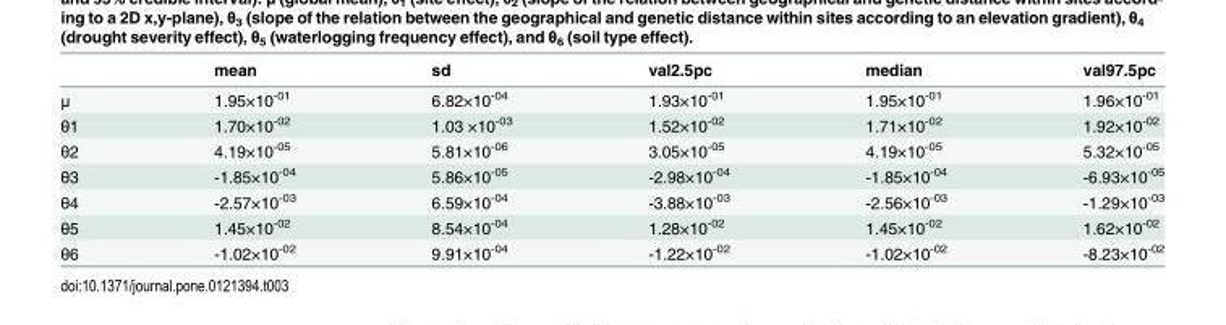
<table><thead><tr><td></td><td>mean</td><td>sd</td><td>val2.5pc</td><td>median</td><td>val97.5pc</td></tr></thead><tbody><tr><td>μ</td><td>1.95×10<sup>-01</sup></td><td>6.82×10<sup>-04</sup></td><td>1.93×10<sup>-01</sup></td><td>1.95×10<sup>-01</sup></td><td>1.96×10<sup>-01</sup></td></tr><tr><td>θ1</td><td>1.70×10<sup>-02</sup></td><td>1.03 ×10<sup>-03</sup></td><td>1.52×10<sup>-02</sup></td><td>1.71×10<sup>-02</sup></td><td>1.92×10<sup>-02</sup></td></tr><tr><td>θ2</td><td>4.19×10<sup>-05</sup></td><td>5.81×10<sup>-06</sup></td><td>3.05×10<sup>-05</sup></td><td>4.19×10<sup>-05</sup></td><td>5.32×10<sup>-05</sup></td></tr><tr><td>θ3</td><td>-1.85×10<sup>-04</sup></td><td>5.86×10<sup>-05</sup></td><td>-2.98×10<sup>-04</sup></td><td>-1.85×10<sup>-04</sup></td><td>-6.93×10<sup>-05</sup></td></tr><tr><td>θ4</td><td>-2.57×10<sup>-03</sup></td><td>6.59×10<sup>-04</sup></td><td>-3.88×10<sup>-03</sup></td><td>-2.56×10<sup>-03</sup></td><td>-1.29×10<sup>-03</sup></td></tr><tr><td>θ5</td><td>1.45×10<sup>-02</sup></td><td>8.54×10<sup>-04</sup></td><td>1.28×10<sup>-02</sup></td><td>1.45×10<sup>-02</sup></td><td>1.62×10<sup>-02</sup></td></tr><tr><td>θ6</td><td>-1.02×10<sup>-02</sup></td><td>9.91×10<sup>-04</sup></td><td>-1.22×10<sup>-02</sup></td><td>-1.02×10<sup>-02</sup></td><td>-8.23×10<sup>-02</sup></td></tr></tbody></table>